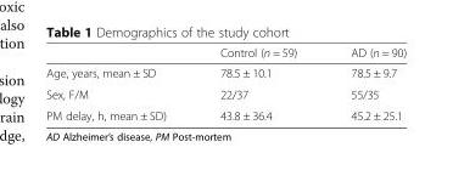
<table><thead><tr><td></td><td>Control (n = 59)</td><td>AD (n = 90)</td></tr></thead><tbody><tr><td>Age, years, mean ± SD</td><td>78.5 ± 10.1</td><td>78.5 ± 9.7</td></tr><tr><td>Sex, F/M</td><td>22/37</td><td>55/35</td></tr><tr><td>PM delay, h, mean ± SD)</td><td>43.8 ± 36.4</td><td>45.2 ± 25.1</td></tr></tbody></table>